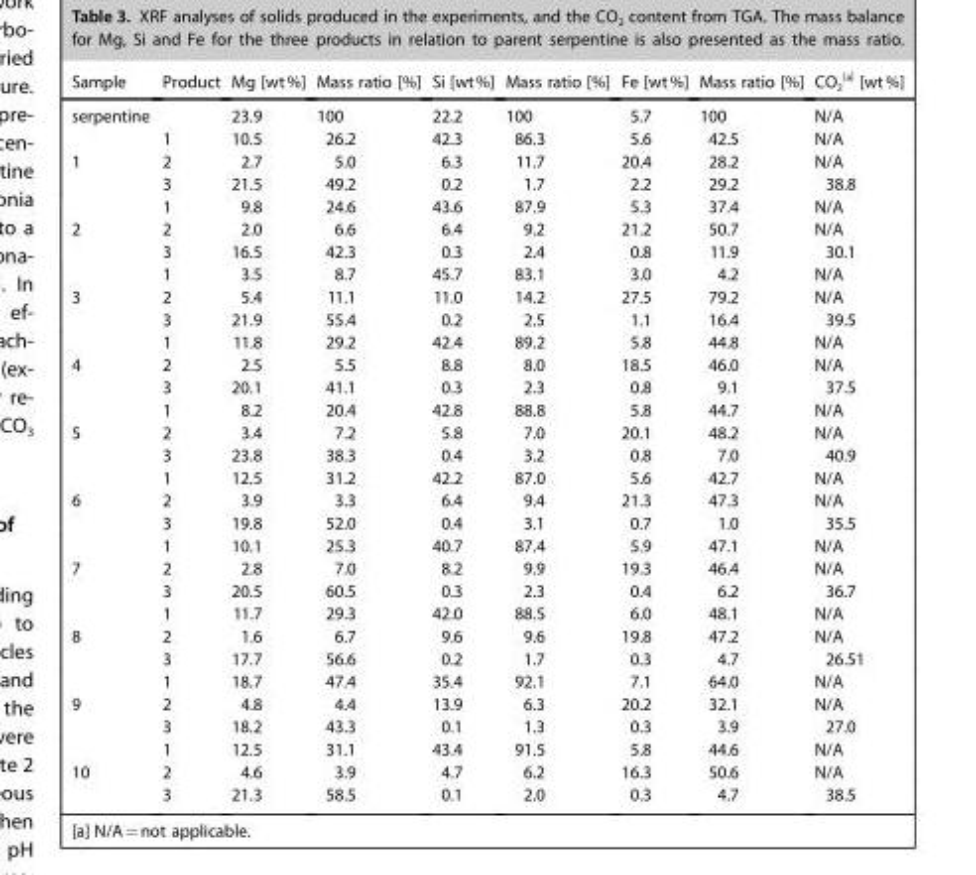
<table><thead><tr><td>Sample</td><td>Product</td><td>Mg [wt%]</td><td>Mass ratio [%]</td><td>Si [wt%]</td><td>Mass ratio [%]</td><td>Fe [wt%]</td><td>Mass ratio [%]</td><td>CO<sub>2</sub> [a] [wt%]</td></tr></thead><tbody><tr><td rowspan="2">serpentine</td><td></td><td>23.9</td><td>100</td><td>22.2</td><td>100</td><td>5.7</td><td>100</td><td>N/A</td></tr><tr><td>1</td><td>10.5</td><td>26.2</td><td>42.3</td><td>86.3</td><td>5.6</td><td>42.5</td><td>N/A</td></tr><tr><td rowspan="3">1</td><td>2</td><td>2.7</td><td>5.0</td><td>6.3</td><td>11.7</td><td>20.4</td><td>28.2</td><td>N/A</td></tr><tr><td>3</td><td>21.5</td><td>49.2</td><td>0.2</td><td>1.7</td><td>2.2</td><td>29.2</td><td>38.8</td></tr><tr><td>1</td><td>9.8</td><td>24.6</td><td>43.6</td><td>87.9</td><td>5.3</td><td>37.4</td><td>N/A</td></tr><tr><td rowspan="3">2</td><td>2</td><td>2.0</td><td>6.6</td><td>6.4</td><td>9.2</td><td>21.2</td><td>50.7</td><td>N/A</td></tr><tr><td>3</td><td>16.5</td><td>42.3</td><td>0.3</td><td>2.4</td><td>0.8</td><td>11.9</td><td>30.1</td></tr><tr><td>1</td><td>3.5</td><td>8.7</td><td>45.7</td><td>83.1</td><td>3.0</td><td>4.2</td><td>N/A</td></tr><tr><td rowspan="3">3</td><td>2</td><td>5.4</td><td>11.1</td><td>11.0</td><td>14.2</td><td>27.5</td><td>79.2</td><td>N/A</td></tr><tr><td>3</td><td>21.9</td><td>55.4</td><td>0.2</td><td>2.5</td><td>1.1</td><td>16.4</td><td>39.5</td></tr><tr><td>1</td><td>11.8</td><td>29.2</td><td>42.4</td><td>89.2</td><td>5.8</td><td>44.8</td><td>N/A</td></tr><tr><td rowspan="3">4</td><td>2</td><td>2.5</td><td>5.5</td><td>8.8</td><td>8.0</td><td>18.5</td><td>46.0</td><td>N/A</td></tr><tr><td>3</td><td>20.1</td><td>41.1</td><td>0.3</td><td>2.3</td><td>0.8</td><td>9.1</td><td>37.5</td></tr><tr><td>1</td><td>8.2</td><td>20.4</td><td>42.8</td><td>88.8</td><td>5.8</td><td>44.7</td><td>N/A</td></tr><tr><td rowspan="3">5</td><td>2</td><td>3.4</td><td>7.2</td><td>5.8</td><td>7.0</td><td>20.1</td><td>48.2</td><td>N/A</td></tr><tr><td>3</td><td>23.8</td><td>38.3</td><td>0.4</td><td>3.2</td><td>0.8</td><td>7.0</td><td>40.9</td></tr><tr><td>1</td><td>12.5</td><td>31.2</td><td>42.2</td><td>87.0</td><td>5.6</td><td>42.7</td><td>N/A</td></tr><tr><td rowspan="3">6</td><td>2</td><td>3.9</td><td>3.3</td><td>6.4</td><td>9.4</td><td>21.3</td><td>47.3</td><td>N/A</td></tr><tr><td>3</td><td>19.8</td><td>52.0</td><td>0.4</td><td>3.1</td><td>0.7</td><td>1.0</td><td>35.5</td></tr><tr><td>1</td><td>10.1</td><td>25.3</td><td>40.7</td><td>87.4</td><td>5.9</td><td>47.1</td><td>N/A</td></tr><tr><td rowspan="3">7</td><td>2</td><td>2.8</td><td>7.0</td><td>8.2</td><td>9.9</td><td>19.3</td><td>46.4</td><td>N/A</td></tr><tr><td>3</td><td>20.5</td><td>60.5</td><td>0.3</td><td>2.3</td><td>0.4</td><td>6.2</td><td>36.7</td></tr><tr><td>1</td><td>11.7</td><td>29.3</td><td>42.0</td><td>88.5</td><td>6.0</td><td>48.1</td><td>N/A</td></tr><tr><td rowspan="3">8</td><td>2</td><td>1.6</td><td>6.7</td><td>9.6</td><td>9.6</td><td>19.8</td><td>47.2</td><td>N/A</td></tr><tr><td>3</td><td>17.7</td><td>56.6</td><td>0.2</td><td>1.7</td><td>0.3</td><td>4.7</td><td>26.51</td></tr><tr><td>1</td><td>18.7</td><td>47.4</td><td>35.4</td><td>92.1</td><td>7.1</td><td>64.0</td><td>N/A</td></tr><tr><td rowspan="3">9</td><td>2</td><td>4.8</td><td>4.4</td><td>13.9</td><td>6.3</td><td>20.2</td><td>32.1</td><td>N/A</td></tr><tr><td>3</td><td>18.2</td><td>43.3</td><td>0.1</td><td>1.3</td><td>0.3</td><td>3.9</td><td>27.0</td></tr><tr><td>1</td><td>12.5</td><td>31.1</td><td>43.4</td><td>91.5</td><td>5.8</td><td>44.6</td><td>N/A</td></tr><tr><td rowspan="2">10</td><td>2</td><td>4.6</td><td>3.9</td><td>4.7</td><td>6.2</td><td>16.3</td><td>50.6</td><td>N/A</td></tr><tr><td>3</td><td>21.3</td><td>58.5</td><td>0.1</td><td>2.0</td><td>0.3</td><td>4.7</td><td>38.5</td></tr></tbody></table>